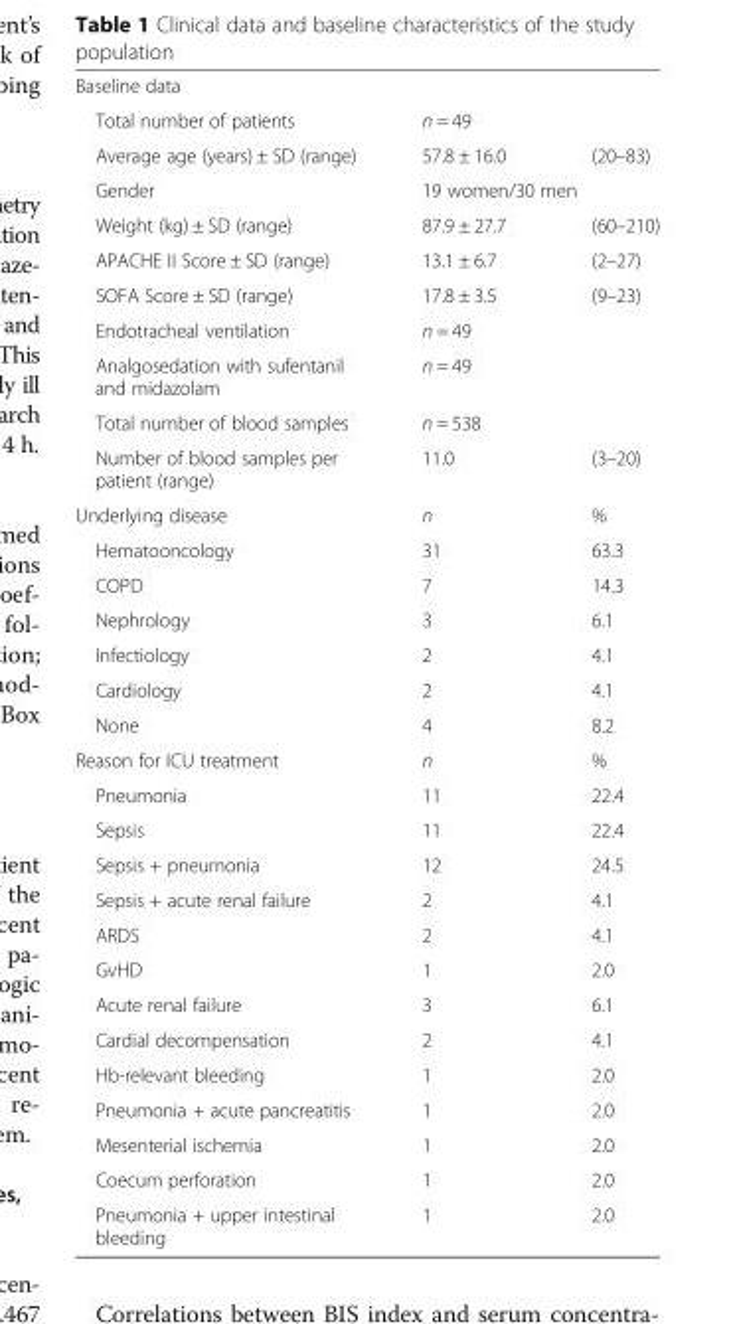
<table><tbody><tr><td colspan="3">Baseline data</td></tr><tr><td>Total number of patients</td><td>n = 49</td><td></td></tr><tr><td>Average age (years) ± SD (range)</td><td>57.8 ± 16.0</td><td>(20–83)</td></tr><tr><td>Gender</td><td>19 women/30 men</td><td></td></tr><tr><td>Weight (kg) ± SD (range)</td><td>87.9 ± 27.7</td><td>(60–210)</td></tr><tr><td>APACHE II Score ± SD (range)</td><td>13.1 ± 6.7</td><td>(2–27)</td></tr><tr><td>SOFA Score ± SD (range)</td><td>17.8 ± 3.5</td><td>(9–23)</td></tr><tr><td>Endotracheal ventilation</td><td>n = 49</td><td></td></tr><tr><td>Analgosedation with sufentanil and midazolam</td><td>n = 49</td><td></td></tr><tr><td>Total number of blood samples</td><td>n = 538</td><td></td></tr><tr><td>Number of blood samples per patient (range)</td><td>11.0</td><td>(3–20)</td></tr><tr><td>Underlying disease</td><td>n</td><td>%</td></tr><tr><td>Hematooncology</td><td>31</td><td>63.3</td></tr><tr><td>COPD</td><td>7</td><td>14.3</td></tr><tr><td>Nephrology</td><td>3</td><td>6.1</td></tr><tr><td>Infectiology</td><td>2</td><td>4.1</td></tr><tr><td>Cardiology</td><td>2</td><td>4.1</td></tr><tr><td>None</td><td>4</td><td>8.2</td></tr><tr><td>Reason for ICU treatment</td><td>n</td><td>%</td></tr><tr><td>Pneumonia</td><td>11</td><td>22.4</td></tr><tr><td>Sepsis</td><td>11</td><td>22.4</td></tr><tr><td>Sepsis + pneumonia</td><td>12</td><td>24.5</td></tr><tr><td>Sepsis + acute renal failure</td><td>2</td><td>4.1</td></tr><tr><td>ARDS</td><td>2</td><td>4.1</td></tr><tr><td>GvHD</td><td>1</td><td>2.0</td></tr><tr><td>Acute renal failure</td><td>3</td><td>6.1</td></tr><tr><td>Cardial decompensation</td><td>2</td><td>4.1</td></tr><tr><td>Hb-relevant bleeding</td><td>1</td><td>2.0</td></tr><tr><td>Pneumonia + acute pancreatitis</td><td>1</td><td>2.0</td></tr><tr><td>Mesenterial ischemia</td><td>1</td><td>2.0</td></tr><tr><td>Coecum perforation</td><td>1</td><td>2.0</td></tr><tr><td>Pneumonia + upper intestinal bleeding</td><td>1</td><td>2.0</td></tr></tbody></table>